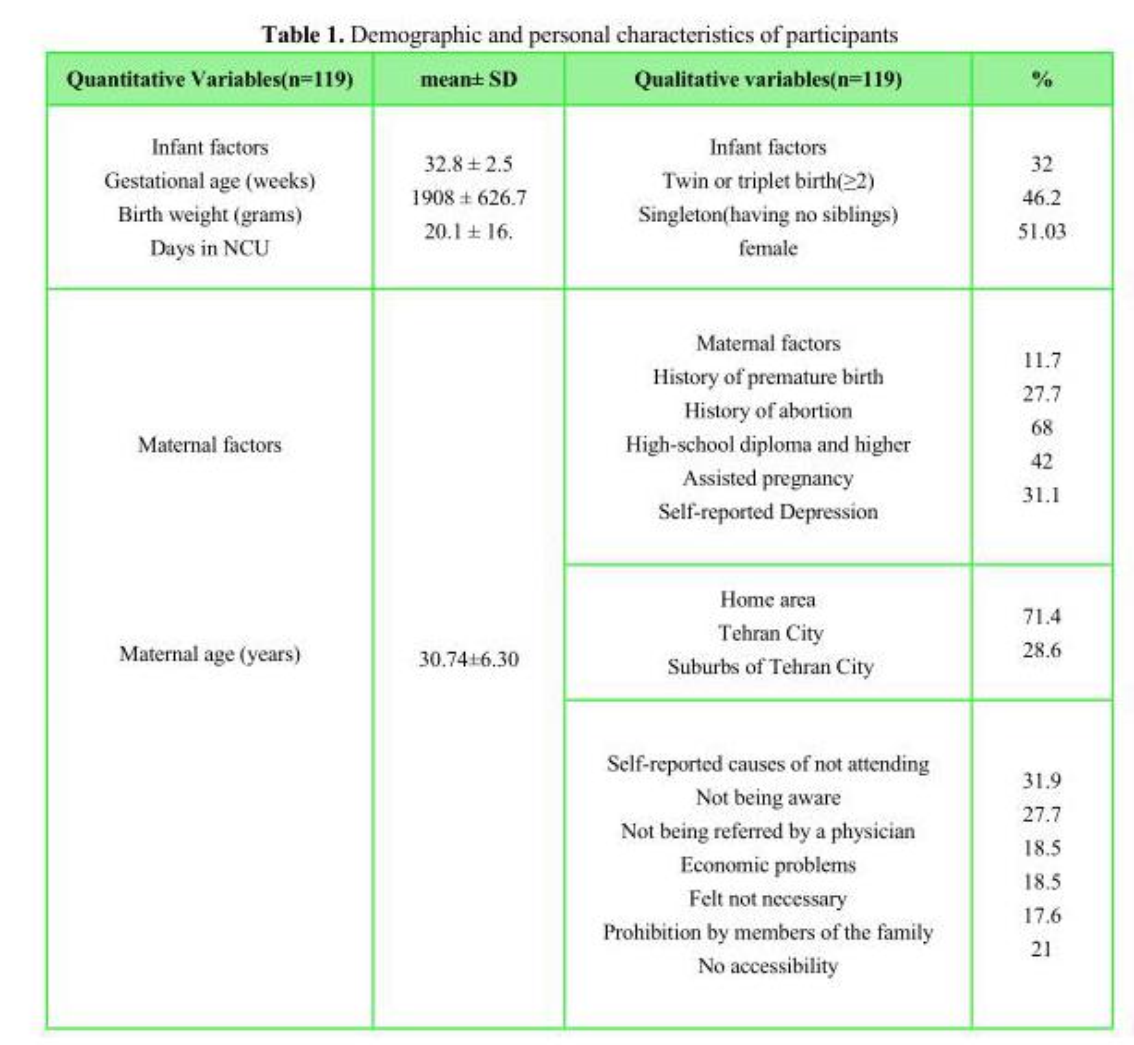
<table><thead><tr><td>Quantitative Variables(n=119)</td><td>mean± SD</td><td>Qualitative variables(n=119)</td><td>%</td></tr></thead><tbody><tr><td>Infant factors Gestational age (weeks) Birth weight (grams) Days in NCU</td><td>32.8 ± 2.5 1908 ± 626.7 20.1 ± 16.</td><td>Infant factors Twin or triplet birth(≥2) Singleton(having no siblings) female</td><td>32 46.2 51.03</td></tr><tr><td rowspan="3">Maternal factors Maternal age (years)</td><td rowspan="3">30.74±6.30</td><td>Maternal factors History of premature birth History of abortion High-school diploma and higher Assisted pregnancy Self-reported Depression</td><td>11.7 27.7 68 42 31.1</td></tr><tr><td>Home area Tehran City Suburbs of Tehran City</td><td>71.4 28.6</td></tr><tr><td>Self-reported causes of not attending Not being aware Not being referred by a physician Economic problems Felt not necessary Prohibition by members of the family No accessibility</td><td>31.9 27.7 18.5 18.5 17.6 21</td></tr></tbody></table>